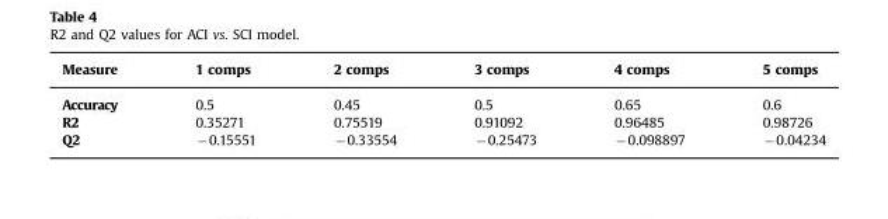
<table><thead><tr><td>Measure</td><td>1 comps</td><td>2 comps</td><td>3 comps</td><td>4 comps</td><td>5 comps</td></tr></thead><tbody><tr><td>Accuracy</td><td>0.5</td><td>0.45</td><td>0.5</td><td>0.65</td><td>0.6</td></tr><tr><td>R2</td><td>0.35271</td><td>0.75519</td><td>0.91092</td><td>0.96485</td><td>0.98726</td></tr><tr><td>Q2</td><td>−0.15551</td><td>−0.33554</td><td>−0.25473</td><td>−0.098897</td><td>−0.04234</td></tr></tbody></table>